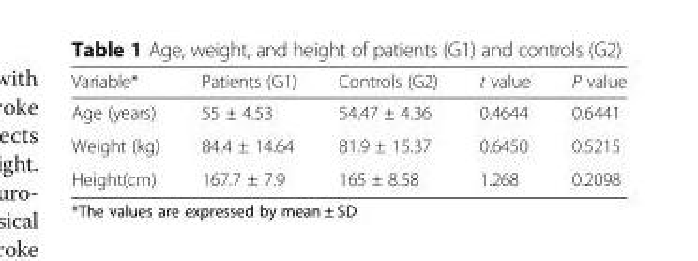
<table><thead><tr><td>Variable*</td><td>Patients (G1)</td><td>Controls (G2)</td><td>t value</td><td>P value</td></tr></thead><tbody><tr><td>Age (years)</td><td>55 ± 4.53</td><td>54.47 ± 4.36</td><td>0.4644</td><td>0.6441</td></tr><tr><td>Weight (kg)</td><td>84.4 ± 14.64</td><td>81.9 ± 15.37</td><td>0.6450</td><td>0.5215</td></tr><tr><td>Height(cm)</td><td>167.7 ± 7.9</td><td>165 ± 8.58</td><td>1.268</td><td>0.2098</td></tr></tbody></table>